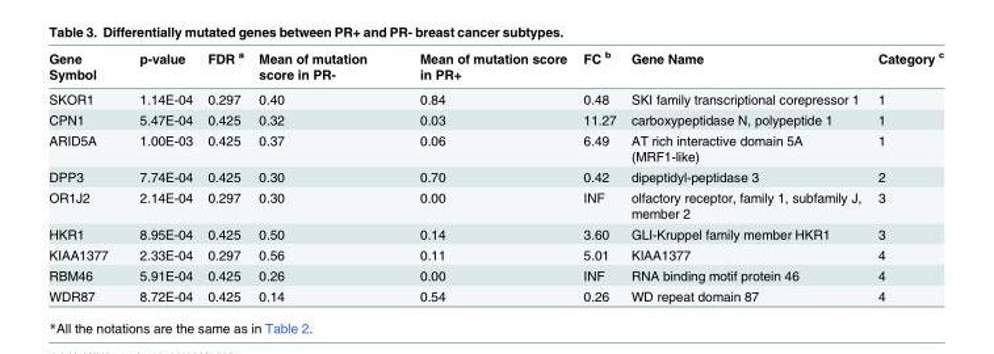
<table><thead><tr><td>Gene Symbol</td><td>p-value</td><td>FDR <sup>a</sup></td><td>Mean of mutation score in PR-</td><td>Mean of mutation score in PR+</td><td>FC <sup>b</sup></td><td>Gene Name</td><td>Category <sup>c</sup></td></tr></thead><tbody><tr><td>SKOR1</td><td>1.14E-04</td><td>0.297</td><td>0.40</td><td>0.84</td><td>0.48</td><td>SKI family transcriptional corepressor 1</td><td>1</td></tr><tr><td>CPN1</td><td>5.47E-04</td><td>0.425</td><td>0.32</td><td>0.03</td><td>11.27</td><td>carboxypeptidase N, polypeptide 1</td><td>1</td></tr><tr><td>ARID5A</td><td>1.00E-03</td><td>0.425</td><td>0.37</td><td>0.06</td><td>6.49</td><td>AT rich interactive domain 5A (MRF1-like)</td><td>1</td></tr><tr><td>DPP3</td><td>7.74E-04</td><td>0.425</td><td>0.30</td><td>0.70</td><td>0.42</td><td>dipeptidyl-peptidase 3</td><td>2</td></tr><tr><td>OR1J2</td><td>2.14E-04</td><td>0.297</td><td>0.30</td><td>0.00</td><td>INF</td><td>olfactory receptor, family 1, subfamily J, member 2</td><td>3</td></tr><tr><td>HKR1</td><td>8.95E-04</td><td>0.425</td><td>0.50</td><td>0.14</td><td>3.60</td><td>GLI-Kruppel family member HKR1</td><td>3</td></tr><tr><td>KIAA1377</td><td>2.33E-04</td><td>0.297</td><td>0.56</td><td>0.11</td><td>5.01</td><td>KIAA1377</td><td>4</td></tr><tr><td>RBM46</td><td>5.91E-04</td><td>0.425</td><td>0.26</td><td>0.00</td><td>INF</td><td>RNA binding motif protein 46</td><td>4</td></tr><tr><td>WDR87</td><td>8.72E-04</td><td>0.425</td><td>0.14</td><td>0.54</td><td>0.26</td><td>WD repeat domain 87</td><td>4</td></tr></tbody></table>